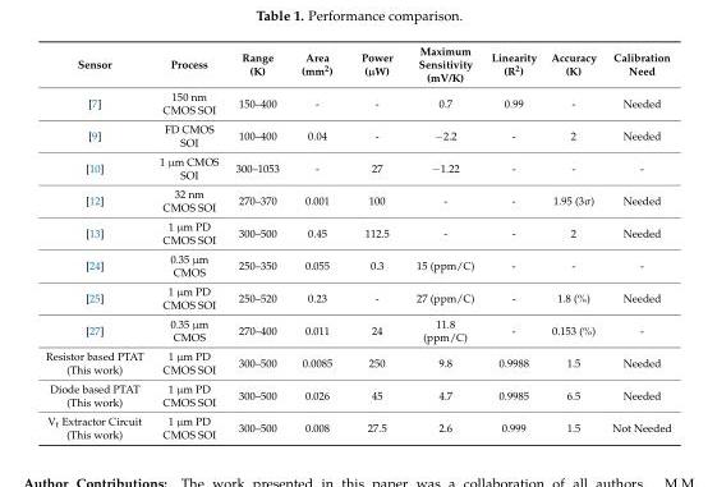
<table><thead><tr><td>Sensor</td><td>Process</td><td>Range (K)</td><td>Area (mm<sup>2</sup>)</td><td>Power (µW)</td><td>Maximum Sensitivity (mV/K)</td><td>Linearity (R<sup>2</sup>)</td><td>Accuracy (K)</td><td>Calibration Need</td></tr></thead><tbody><tr><td>[7]</td><td>150 nm CMOS SOI</td><td>150–400</td><td>-</td><td>-</td><td>0.7</td><td>0.99</td><td>-</td><td>Needed</td></tr><tr><td>[9]</td><td>FD CMOS SOI</td><td>100–400</td><td>0.04</td><td>-</td><td>−2.2</td><td>-</td><td>2</td><td>Needed</td></tr><tr><td>[10]</td><td>1 µm CMOS SOI</td><td>300–1053</td><td>-</td><td>27</td><td>−1.22</td><td>-</td><td>-</td><td>-</td></tr><tr><td>[12]</td><td>32 nm CMOS SOI</td><td>270–370</td><td>0.001</td><td>100</td><td>-</td><td>-</td><td>1.95 (3σ)</td><td>Needed</td></tr><tr><td>[13]</td><td>1 µm PD CMOS SOI</td><td>300–500</td><td>0.45</td><td>112.5</td><td>-</td><td>-</td><td>2</td><td>Needed</td></tr><tr><td>[24]</td><td>0.35 µm CMOS</td><td>250–350</td><td>0.055</td><td>0.3</td><td>15 (ppm/C)</td><td>-</td><td>-</td><td>-</td></tr><tr><td>[25]</td><td>1 µm PD CMOS SOI</td><td>250–520</td><td>0.23</td><td>-</td><td>27 (ppm/C)</td><td>-</td><td>1.8 (%)</td><td>Needed</td></tr><tr><td>[27]</td><td>0.35 µm CMOS</td><td>270–400</td><td>0.011</td><td>24</td><td>11.8 (ppm/C)</td><td>-</td><td>0.153 (%)</td><td>-</td></tr><tr><td>Resistor based PTAT (This work)</td><td>1 µm PD CMOS SOI</td><td>300–500</td><td>0.0085</td><td>250</td><td>9.8</td><td>0.9988</td><td>1.5</td><td>Needed</td></tr><tr><td>Diode based PTAT (This work)</td><td>1 µm PD CMOS SOI</td><td>300–500</td><td>0.026</td><td>45</td><td>4.7</td><td>0.9985</td><td>6.5</td><td>Needed</td></tr><tr><td>V<sub>t</sub> Extractor Circuit (This work)</td><td>1 µm PD CMOS SOI</td><td>300–500</td><td>0.008</td><td>27.5</td><td>2.6</td><td>0.999</td><td>1.5</td><td>Not Needed</td></tr></tbody></table>